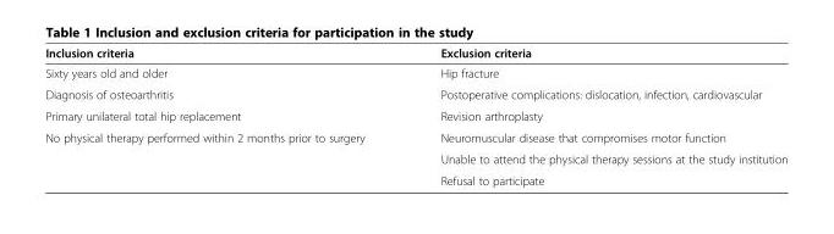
<table><thead><tr><td>Inclusion criteria</td><td>Exclusion criteria</td></tr></thead><tbody><tr><td>Sixty years old and older</td><td>Hip fracture</td></tr><tr><td>Diagnosis of osteoarthritis</td><td>Postoperative complications: dislocation, infection, cardiovascular</td></tr><tr><td>Primary unilateral total hip replacement</td><td>Revision arthroplasty</td></tr><tr><td rowspan="3">No physical therapy performed within 2 months prior to surgery</td><td>Neuromuscular disease that compromises motor function</td></tr><tr><td>Unable to attend the physical therapy sessions at the study institution</td></tr><tr><td>Refusal to participate</td></tr></tbody></table>